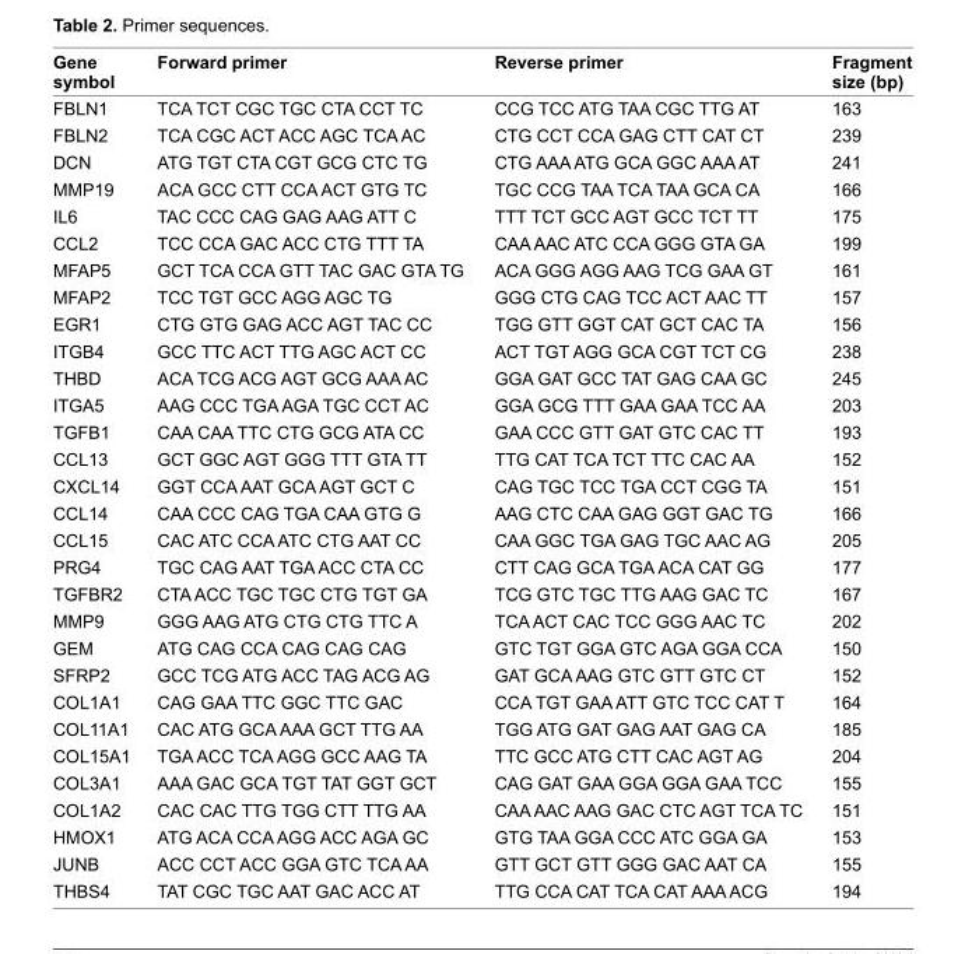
<table><thead><tr><td>Gene symbol</td><td>Forward primer</td><td>Reverse primer</td><td>Fragment size (bp)</td></tr></thead><tbody><tr><td>FBLN1</td><td>TCA TCT CGC TGC CTA CCT TC</td><td>CCG TCC ATG TAA CGC TTG AT</td><td>163</td></tr><tr><td>FBLN2</td><td>TCA CGC ACT ACC AGC TCA AC</td><td>CTG CCT CCA GAG CTT CAT CT</td><td>239</td></tr><tr><td>DCN</td><td>ATG TGT CTA CGT GCG CTC TG</td><td>CTG AAA ATG GCA GGC AAA AT</td><td>241</td></tr><tr><td>MMP19</td><td>ACA GCC CTT CCA ACT GTG TC</td><td>TGC CCG TAA TCA TAA GCA CA</td><td>166</td></tr><tr><td>IL6</td><td>TAC CCC CAG GAG AAG ATT C</td><td>TTT TCT GCC AGT GCC TCT TT</td><td>175</td></tr><tr><td>CCL2</td><td>TCC CCA GAC ACC CTG TTT TA</td><td>CAA AAC ATC CCA GGG GTA GA</td><td>199</td></tr><tr><td>MFAP5</td><td>GCT TCA CCA GTT TAC GAC GTA TG</td><td>ACA GGG AGG AAG TCG GAA GT</td><td>161</td></tr><tr><td>MFAP2</td><td>TCC TGT GCC AGG AGC TG</td><td>GGG CTG CAG TCC ACT AAC TT</td><td>157</td></tr><tr><td>EGR1</td><td>CTG GTG GAG ACC AGT TAC CC</td><td>TGG GTT GGT CAT GCT CAC TA</td><td>156</td></tr><tr><td>ITGB4</td><td>GCC TTC ACT TTG AGC ACT CC</td><td>ACT TGT AGG GCA CGT TCT CG</td><td>238</td></tr><tr><td>THBD</td><td>ACA TCG ACG AGT GCG AAA AC</td><td>GGA GAT GCC TAT GAG CAA GC</td><td>245</td></tr><tr><td>ITGA5</td><td>AAG CCC TGA AGA TGC CCT AC</td><td>GGA GCG TTT GAA GAA TCC AA</td><td>203</td></tr><tr><td>TGFB1</td><td>CAA CAA TTC CTG GCG ATA CC</td><td>GAA CCC GTT GAT GTC CAC TT</td><td>193</td></tr><tr><td>CCL13</td><td>GCT GGC AGT GGG TTT GTA TT</td><td>TTG CAT TCA TCT TTC CAC AA</td><td>152</td></tr><tr><td>CXCL14</td><td>GGT CCA AAT GCA AGT GCT C</td><td>CAG TGC TCC TGA CCT CGG TA</td><td>151</td></tr><tr><td>CCL14</td><td>CAA CCC CAG TGA CAA GTG G</td><td>AAG CTC CAA GAG GGT GAC TG</td><td>166</td></tr><tr><td>CCL15</td><td>CAC ATC CCA ATC CTG AAT CC</td><td>CAA GGC TGA GAG TGC AAC AG</td><td>205</td></tr><tr><td>PRG4</td><td>TGC CAG AAT TGA ACC CTA CC</td><td>CTT CAG GCA TGA ACA CAT GG</td><td>177</td></tr><tr><td>TGFBR2</td><td>CTA ACC TGC TGC CTG TGT GA</td><td>TCG GTC TGC TTG AAG GAC TC</td><td>167</td></tr><tr><td>MMP9</td><td>GGG AAG ATG CTG CTG TTC A</td><td>TCA ACT CAC TCC GGG AAC TC</td><td>202</td></tr><tr><td>GEM</td><td>ATG CAG CCA CAG CAG CAG</td><td>GTC TGT GGA GTC AGA GGA CCA</td><td>150</td></tr><tr><td>SFRP2</td><td>GCC TCG ATG ACC TAG ACG AG</td><td>GAT GCA AAG GTC GTT GTC CT</td><td>152</td></tr><tr><td>COL1A1</td><td>CAG GAA TTC GGC TTC GAC</td><td>CCA TGT GAA ATT GTC TCC CAT T</td><td>164</td></tr><tr><td>COL11A1</td><td>CAC ATG GCA AAA GCT TTG AA</td><td>TGG ATG GAT GAG AAT GAG CA</td><td>185</td></tr><tr><td>COL15A1</td><td>TGA ACC TCA AGG GCC AAG TA</td><td>TTC GCC ATG CTT CAC AGT AG</td><td>204</td></tr><tr><td>COL3A1</td><td>AAA GAC GCA TGT TAT GGT GCT</td><td>CAG GAT GAA GGA GGA GAA TCC</td><td>155</td></tr><tr><td>COL1A2</td><td>CAC CAC TTG TGG CTT TTG AA</td><td>CAA AAC AAG GAC CTC AGT TCA TC</td><td>151</td></tr><tr><td>HMOX1</td><td>ATG ACA CCA AGG ACC AGA GC</td><td>GTG TAA GGA CCC ATC GGA GA</td><td>153</td></tr><tr><td>JUNB</td><td>ACC CCT ACC GGA GTC TCA AA</td><td>GTT GCT GTT GGG GAC AAT CA</td><td>155</td></tr><tr><td>THBS4</td><td>TAT CGC TGC AAT GAC ACC AT</td><td>TTG CCA CAT TCA CAT AAA ACG</td><td>194</td></tr></tbody></table>